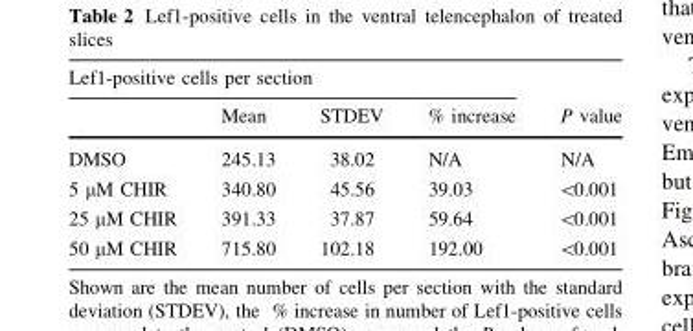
<table><thead><tr><td colspan="4">Lef1-positive cells per section</td><td rowspan="2">P value</td></tr><tr><td></td><td>Mean</td><td>STDEV</td><td>% increase</td></tr></thead><tbody><tr><td>DMSO</td><td>245.13</td><td>38.02</td><td>N/A</td><td>N/A</td></tr><tr><td>5 μM CHIR</td><td>340.80</td><td>45.56</td><td>39.03</td><td>&lt;0.001</td></tr><tr><td>25 μM CHIR</td><td>391.33</td><td>37.87</td><td>59.64</td><td>&lt;0.001</td></tr><tr><td>50 μM CHIR</td><td>715.80</td><td>102.18</td><td>192.00</td><td>&lt;0.001</td></tr></tbody></table>